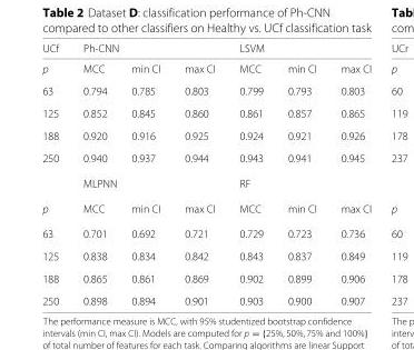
<table><thead><tr><td rowspan="2">UCf p</td><td colspan="3">Ph-CNN</td><td colspan="3">LSVM</td></tr><tr><td>MCC</td><td>min CI</td><td>max CI</td><td>MCC</td><td>min CI</td><td>max CI</td></tr></thead><tbody><tr><td>63</td><td>0.794</td><td>0.785</td><td>0.803</td><td>0.799</td><td>0.793</td><td>0.803</td></tr><tr><td>125</td><td>0.852</td><td>0.845</td><td>0.860</td><td>0.861</td><td>0.857</td><td>0.865</td></tr><tr><td>188</td><td>0.920</td><td>0.916</td><td>0.925</td><td>0.924</td><td>0.921</td><td>0.926</td></tr><tr><td rowspan="2">250</td><td>0.940</td><td>0.937</td><td>0.944</td><td>0.943</td><td>0.941</td><td>0.945</td></tr><tr><td colspan="3">MLPNN</td><td colspan="3">RF</td></tr><tr><td>p</td><td>MCC</td><td>min CI</td><td>max CI</td><td>MCC</td><td>min CI</td><td>max CI</td></tr><tr><td>63</td><td>0.701</td><td>0.692</td><td>0.721</td><td>0.729</td><td>0.723</td><td>0.736</td></tr><tr><td>125</td><td>0.838</td><td>0.834</td><td>0.842</td><td>0.843</td><td>0.837</td><td>0.849</td></tr><tr><td>188</td><td>0.865</td><td>0.861</td><td>0.869</td><td>0.902</td><td>0.899</td><td>0.906</td></tr><tr><td>250</td><td>0.898</td><td>0.894</td><td>0.901</td><td>0.903</td><td>0.900</td><td>0.907</td></tr></tbody></table>